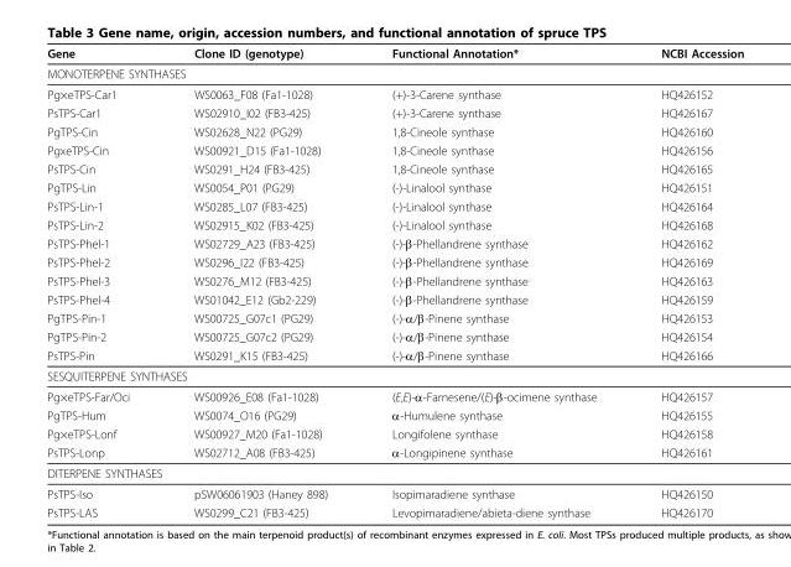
<table><thead><tr><td>Gene</td><td>Clone ID (genotype)</td><td>Functional Annotation*</td><td>NCBI Accession</td></tr></thead><tbody><tr><td colspan="4">MONOTERPENE SYNTHASES</td></tr><tr><td>Pg×eTPS-Car1</td><td>WS0063_F08 (Fa1-1028)</td><td>(+)-3-Carene synthase</td><td>HQ426152</td></tr><tr><td>PsTPS-Car1</td><td>WS02910_I02 (FB3-425)</td><td>(+)-3-Carene synthase</td><td>HQ426167</td></tr><tr><td>PgTPS-Cin</td><td>WS02628_N22 (PG29)</td><td>1,8-Cineole synthase</td><td>HQ426160</td></tr><tr><td>PgxeTPS-Cin</td><td>WS00921_D15 (Fa1-1028)</td><td>1,8-Cineole synthase</td><td>HQ426156</td></tr><tr><td>PsTPS-Cin</td><td>WS0291_H24 (FB3-425)</td><td>1,8-Cineole synthase</td><td>HQ426165</td></tr><tr><td>PgTPS-Lin</td><td>WS0054_P01 (PG29)</td><td>(-)-Linalool synthase</td><td>HQ426151</td></tr><tr><td>PsTPS-Lin-1</td><td>WS0285_L07 (FB3-425)</td><td>(-)-Linalool synthase</td><td>HQ426164</td></tr><tr><td>PsTPS-Lin-2</td><td>WS02915_K02 (FB3-425)</td><td>(-)-Linalool synthase</td><td>HQ426168</td></tr><tr><td>PsTPS-Phel-1</td><td>WS02729_A23 (FB3-425)</td><td>(-)-β-Phellandrene synthase</td><td>HQ426162</td></tr><tr><td>PsTPS-Phel-2</td><td>WS0296_I22 (FB3-425)</td><td>(-)-β-Phellandrene synthase</td><td>HQ426169</td></tr><tr><td>PsTPS-Phel-3</td><td>WS0276_M12 (FB3-425)</td><td>(-)-β-Phellandrene synthase</td><td>HQ426163</td></tr><tr><td>PsTPS-Phel-4</td><td>WS01042_E12 (Gb2-229)</td><td>(-)-β-Phellandrene synthase</td><td>HQ426159</td></tr><tr><td>PgTPS-Pin-1</td><td>WS00725_G07c1 (PG29)</td><td>(-)-α/β-Pinene synthase</td><td>HQ426153</td></tr><tr><td>PgTPS-Pin-2</td><td>WS00725_G07c2 (PG29)</td><td>(-)-α/β-Pinene synthase</td><td>HQ426154</td></tr><tr><td>PsTPS-Pin</td><td>WS0291_K15 (FB3-425)</td><td>(-)-α/β-Pinene synthase</td><td>HQ426166</td></tr><tr><td colspan="4">SESQUITERPENE SYNTHASES</td></tr><tr><td>Pg×eTPS-Far/Oci</td><td>WS00926_E08 (Fa1-1028)</td><td>(E,E)-α-Farnesene/(E)-β-ocimene synthase</td><td>HQ426157</td></tr><tr><td>PgTPS-Hum</td><td>WS0074_O16 (PG29)</td><td>α-Humulene synthase</td><td>HQ426155</td></tr><tr><td>Pg×eTPS-Lonf</td><td>WS00927_M20 (Fa1-1028)</td><td>Longifolene synthase</td><td>HQ426158</td></tr><tr><td>PsTPS-Lonp</td><td>WS02712_A08 (FB3-425)</td><td>α-Longipinene synthase</td><td>HQ426161</td></tr><tr><td colspan="4">DITERPENE SYNTHASES</td></tr><tr><td>PsTPS-Iso</td><td>pSW06061903 (Haney 898)</td><td>Isopimaradiene synthase</td><td>HQ426150</td></tr><tr><td>PsTPS-LAS</td><td>WS0299_C21 (FB3-425)</td><td>Levopimaradiene/abieta-diene synthase</td><td>HQ426170</td></tr></tbody></table>